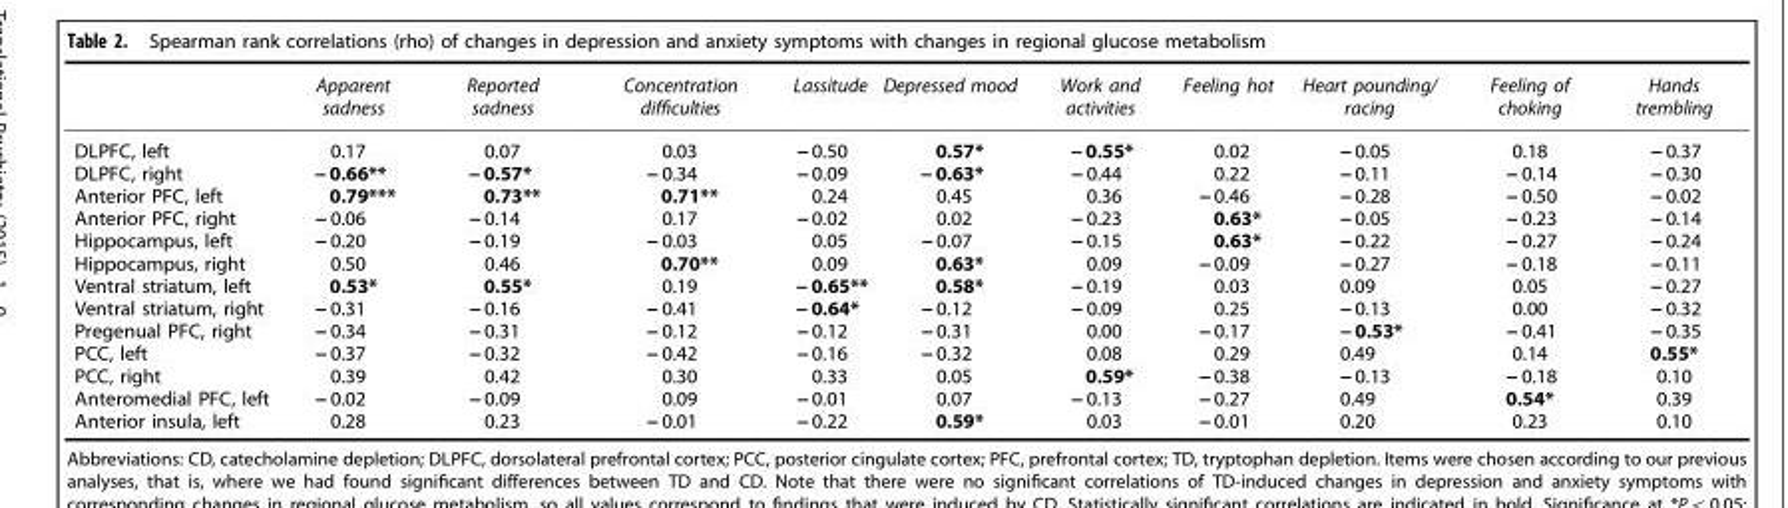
<table><thead><tr><td></td><td>Apparent sadness</td><td>Reported sadness</td><td>Concentration difficulties</td><td>Lassitude</td><td>Depressed mood</td><td>Work and activities</td><td>Feeling hot</td><td>Heart pounding/ racing</td><td>Feeling of choking</td><td>Hands trembling</td></tr></thead><tbody><tr><td>DLPFC, left</td><td>0.17</td><td>0.07</td><td>0.03</td><td>− 0.50</td><td>0.57*</td><td>− 0.55*</td><td>0.02</td><td>− 0.05</td><td>0.18</td><td>− 0.37</td></tr><tr><td>DLPFC, right</td><td>− 0.66**</td><td>− 0.57*</td><td>− 0.34</td><td>− 0.09</td><td>− 0.63*</td><td>− 0.44</td><td>0.22</td><td>− 0.11</td><td>− 0.14</td><td>− 0.30</td></tr><tr><td>Anterior PFC, left</td><td>0.79***</td><td>0.73**</td><td>0.71**</td><td>0.24</td><td>0.45</td><td>0.36</td><td>− 0.46</td><td>− 0.28</td><td>− 0.50</td><td>− 0.02</td></tr><tr><td>Anterior PFC, right</td><td>− 0.06</td><td>− 0.14</td><td>0.17</td><td>− 0.02</td><td>0.02</td><td>− 0.23</td><td>0.63*</td><td>− 0.05</td><td>− 0.23</td><td>− 0.14</td></tr><tr><td>Hippocampus, left</td><td>− 0.20</td><td>− 0.19</td><td>− 0.03</td><td>0.05</td><td>− 0.07</td><td>− 0.15</td><td>0.63*</td><td>− 0.22</td><td>− 0.27</td><td>− 0.24</td></tr><tr><td>Hippocampus, right</td><td>0.50</td><td>0.46</td><td>0.70**</td><td>0.09</td><td>0.63*</td><td>0.09</td><td>− 0.09</td><td>− 0.27</td><td>− 0.18</td><td>− 0.11</td></tr><tr><td>Ventral striatum, left</td><td>0.53*</td><td>0.55*</td><td>0.19</td><td>− 0.65**</td><td>0.58*</td><td>− 0.19</td><td>0.03</td><td>0.09</td><td>0.05</td><td>− 0.27</td></tr><tr><td>Ventral striatum, right</td><td>− 0.31</td><td>− 0.16</td><td>− 0.41</td><td>− 0.64*</td><td>− 0.12</td><td>− 0.09</td><td>0.25</td><td>− 0.13</td><td>0.00</td><td>− 0.32</td></tr><tr><td>Pregenual PFC, right</td><td>− 0.34</td><td>− 0.31</td><td>− 0.12</td><td>− 0.12</td><td>− 0.31</td><td>0.00</td><td>− 0.17</td><td>− 0.53*</td><td>− 0.41</td><td>− 0.35</td></tr><tr><td>PCC, left</td><td>− 0.37</td><td>− 0.32</td><td>− 0.42</td><td>− 0.16</td><td>− 0.32</td><td>0.08</td><td>0.29</td><td>0.49</td><td>0.14</td><td>0.55*</td></tr><tr><td>PCC, right</td><td>0.39</td><td>0.42</td><td>0.30</td><td>0.33</td><td>0.05</td><td>0.59*</td><td>− 0.38</td><td>− 0.13</td><td>− 0.18</td><td>0.10</td></tr><tr><td>Anteromedial PFC, left</td><td>− 0.02</td><td>− 0.09</td><td>0.09</td><td>− 0.01</td><td>0.07</td><td>− 0.13</td><td>− 0.27</td><td>0.49</td><td>0.54*</td><td>0.39</td></tr><tr><td>Anterior insula, left</td><td>0.28</td><td>0.23</td><td>− 0.01</td><td>− 0.22</td><td>0.59*</td><td>0.03</td><td>− 0.01</td><td>0.20</td><td>0.23</td><td>0.10</td></tr></tbody></table>